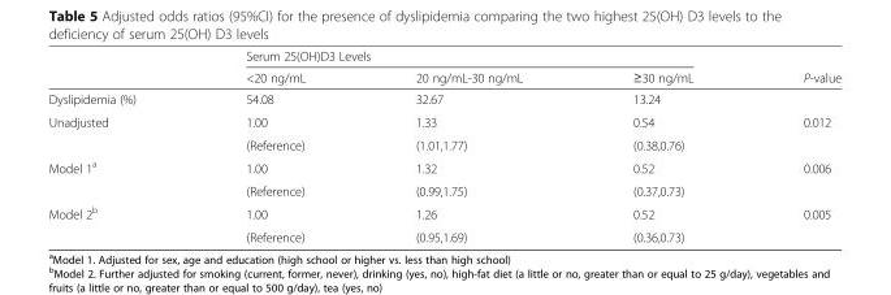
<table><thead><tr><td rowspan="2"></td><td colspan="3">Serum 25(OH)D3 Levels</td><td rowspan="2">P-value</td></tr><tr><td>&lt;20 ng/mL</td><td>20 ng/mL-30 ng/mL</td><td>≥30 ng/mL</td></tr></thead><tbody><tr><td>Dyslipidemia (%)</td><td>54.08</td><td>32.67</td><td>13.24</td><td></td></tr><tr><td rowspan="2">Unadjusted</td><td>1.00</td><td>1.33</td><td>0.54</td><td rowspan="2">0.012</td></tr><tr><td>(Reference)</td><td>(1.01,1.77)</td><td>(0.38,0.76)</td></tr><tr><td rowspan="2">Model 1<sup>a</sup></td><td>1.00</td><td>1.32</td><td>0.52</td><td rowspan="2">0.006</td></tr><tr><td>(Reference)</td><td>(0.99,1.75)</td><td>(0.37,0.73)</td></tr><tr><td rowspan="2">Model 2<sup>b</sup></td><td>1.00</td><td>1.26</td><td>0.52</td><td rowspan="2">0.005</td></tr><tr><td>(Reference)</td><td>(0.95,1.69)</td><td>(0.36,0.73)</td></tr></tbody></table>